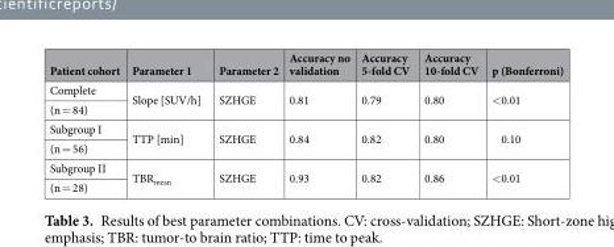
<table><thead><tr><td>Patient cohort</td><td>Parameter 1</td><td>Parameter 2</td><td>Accuracy no validation</td><td>Accuracy 5-fold CV</td><td>Accuracy 10-fold CV</td><td>p (Bonferroni)</td></tr></thead><tbody><tr><td>Complete</td><td rowspan="2">Slope [SUV/h]</td><td rowspan="2">SZHGE</td><td rowspan="2">0.81</td><td rowspan="2">0.79</td><td rowspan="2">0.80</td><td rowspan="2">&lt;0.01</td></tr><tr><td>(n = 84)</td></tr><tr><td>Subgroup I</td><td rowspan="2">TTP [min]</td><td rowspan="2">SZHGE</td><td rowspan="2">0.84</td><td rowspan="2">0.82</td><td rowspan="2">0.80</td><td rowspan="2">0.10</td></tr><tr><td>(n = 56)</td></tr><tr><td>Subgroup II</td><td rowspan="2">TBR<sub>mean</sub></td><td rowspan="2">SZHGE</td><td rowspan="2">0.93</td><td rowspan="2">0.82</td><td rowspan="2">0.86</td><td rowspan="2">&lt;0.01</td></tr><tr><td>(n = 28)</td></tr></tbody></table>